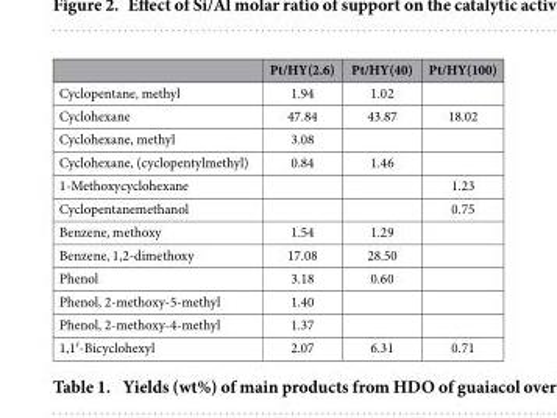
<table><thead><tr><td></td><td>Pt/HY(2.6)</td><td>Pt/HY(40)</td><td>Pt/HY(100)</td></tr></thead><tbody><tr><td>Cyclopentane, methyl</td><td>1.94</td><td>1.02</td><td></td></tr><tr><td>Cyclohexane</td><td>47.84</td><td>43.87</td><td>18.02</td></tr><tr><td>Cyclohexane, methyl</td><td>3.08</td><td></td><td></td></tr><tr><td>Cyclohexane, (cyclopentylmethyl)</td><td>0.84</td><td>1.46</td><td></td></tr><tr><td>1-Methoxycyclohexane</td><td></td><td></td><td>1.23</td></tr><tr><td>Cyclopentanemethanol</td><td></td><td></td><td>0.75</td></tr><tr><td>Benzene, methoxy</td><td>1.54</td><td>1.29</td><td></td></tr><tr><td>Benzene, 1,2-dimethoxy</td><td>17.08</td><td>28.50</td><td></td></tr><tr><td>Phenol</td><td>3.18</td><td>0.60</td><td></td></tr><tr><td>Phenol, 2-methoxy-5-methyl</td><td>1.40</td><td></td><td></td></tr><tr><td>Phenol, 2-methoxy-4-methyl</td><td>1.37</td><td></td><td></td></tr><tr><td>1,1′ -Bicyclohexyl</td><td>2.07</td><td>6.31</td><td>0.71</td></tr></tbody></table>